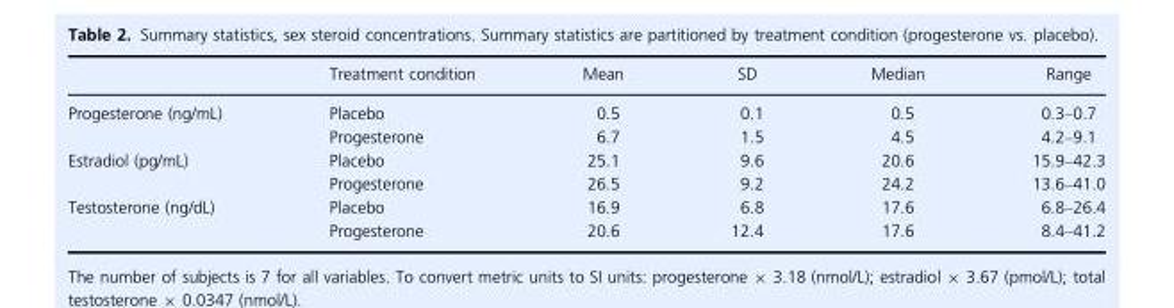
<table><thead><tr><td></td><td>Treatment condition</td><td>Mean</td><td>SD</td><td>Median</td><td>Range</td></tr></thead><tbody><tr><td rowspan="2">Progesterone (ng/mL)</td><td>Placebo</td><td>0.5</td><td>0.1</td><td>0.5</td><td>0.3–0.7</td></tr><tr><td>Progesterone</td><td>6.7</td><td>1.5</td><td>4.5</td><td>4.2–9.1</td></tr><tr><td rowspan="2">Estradiol (pg/mL)</td><td>Placebo</td><td>25.1</td><td>9.6</td><td>20.6</td><td>15.9–42.3</td></tr><tr><td>Progesterone</td><td>26.5</td><td>9.2</td><td>24.2</td><td>13.6–41.0</td></tr><tr><td rowspan="2">Testosterone (ng/dL)</td><td>Placebo</td><td>16.9</td><td>6.8</td><td>17.6</td><td>6.8–26.4</td></tr><tr><td>Progesterone</td><td>20.6</td><td>12.4</td><td>17.6</td><td>8.4–41.2</td></tr></tbody></table>